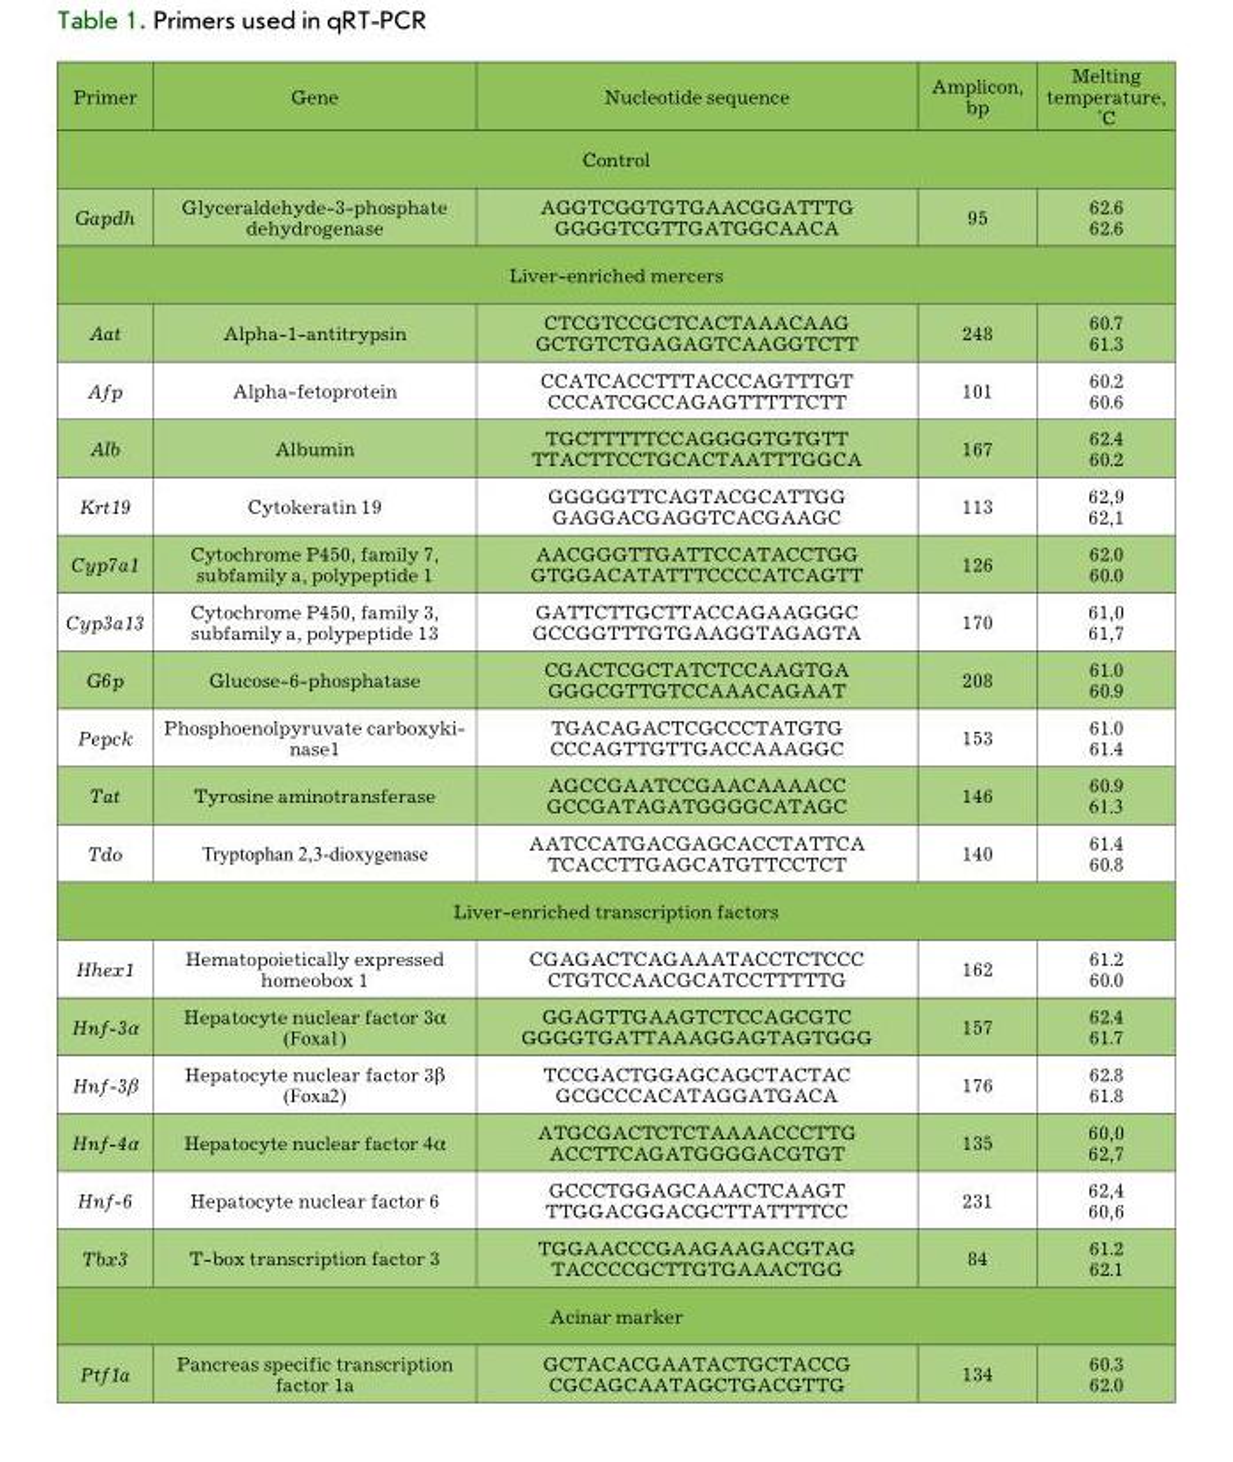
<table><thead><tr><td>Primer</td><td>Gene</td><td>Nucleotide sequence</td><td>Amplicon, bp</td><td>Melting temperature, °C</td></tr></thead><tbody><tr><td colspan="5">Control</td></tr><tr><td>Gapdh</td><td>Glyceraldehyde-3-phosphate dehydrogenase</td><td>AGGTCGGTGTGAACGGATTTG GGGGTCGTTGATGGCAACA</td><td>95</td><td>62.6 62.6</td></tr><tr><td colspan="5">Liver-enriched mercers</td></tr><tr><td>Aat</td><td>Alpha-1-antitrypsin</td><td>CTCGTCCGCTCACTAAACAAG GCTGTCTGAGAGTCAAGGTCTT</td><td>248</td><td>60.7 61.3</td></tr><tr><td>Afp</td><td>Alpha-fetoprotein</td><td>CCATCACCTTTACCCAGTTTGT CCCATCGCCAGAGTTTTTCTT</td><td>101</td><td>60.2 60.6</td></tr><tr><td>Alb</td><td>Albumin</td><td>TGCTTTTTCCAGGGGTGTGTT TTACTTCCTGCACTAATTTGGCA</td><td>167</td><td>62.4 60.2</td></tr><tr><td>Krt19</td><td>Cytokeratin 19</td><td>GGGGGTTCAGTACGCATTGG GAGGACGAGGTCACGAAGC</td><td>113</td><td>62,9 62,1</td></tr><tr><td>Cyp7a1</td><td>Cytochrome P450, family 7, subfamily a, polypeptide 1</td><td>AACGGGTTGATTCCATACCTGG GTGGACATATTTCCCCATCAGTT</td><td>126</td><td>62.0 60.0</td></tr><tr><td>Cyp3a13</td><td>Cytochrome P450, family 3, subfamily a, polypeptide 13</td><td>GATTCTTGCTTACCAGAAGGGC GCCGGTTTGTGAAGGTAGAGTA</td><td>170</td><td>61,0 61,7</td></tr><tr><td>G6p</td><td>Glucose-6-phosphatase</td><td>CGACTCGCTATCTCCAAGTGA GGGCGTTGTCCAAACAGAAT</td><td>208</td><td>61.0 60.9</td></tr><tr><td>Pepck</td><td>Phosphoenolpyruvate carboxyki- nase1</td><td>TGACAGACTCGCCCTATGTG CCCAGTTGTTGACCAAAGGC</td><td>153</td><td>61.0 61.4</td></tr><tr><td>Tat</td><td>Tyrosine aminotransferase</td><td>AGCCGAATCCGAACAAAACC GCCGATAGATGGGGCATAGC</td><td>146</td><td>60.9 61.3</td></tr><tr><td>Tdo</td><td>Tryptophan 2,3-dioxygenase</td><td>AATCCATGACGAGCACCTATTCA TCACCTTGAGCATGTTCCTCT</td><td>140</td><td>61.4 60.8</td></tr><tr><td colspan="5">Liver-enriched transcription factors</td></tr><tr><td>Hhex1</td><td>Hematopoietically expressed homeobox 1</td><td>CGAGACTCAGAAATACCTCTCCC CTGTCCAACGCATCCTTTTTG</td><td>162</td><td>61.2 60.0</td></tr><tr><td>Hnf-3α</td><td>Hepatocyte nuclear factor 3α (Foxa1)</td><td>GGAGTTGAAGTCTCCAGCGTC GGGGTGATTAAAGGAGTAGTGGG</td><td>157</td><td>62.4 61.7</td></tr><tr><td>Hnf-3β</td><td>Hepatocyte nuclear factor 3β (Foxa2)</td><td>TCCGACTGGAGCAGCTACTAC GCGCCCACATAGGATGACA</td><td>176</td><td>62.8 61.8</td></tr><tr><td>Hnf-4α</td><td>Hepatocyte nuclear factor 4α</td><td>ATGCGACTCTCTAAAACCCTTG ACCTTCAGATGGGGACGTGT</td><td>135</td><td>60,0 62,7</td></tr><tr><td>Hnf-6</td><td>Hepatocyte nuclear factor 6</td><td>GCCCTGGAGCAAACTCAAGT TTGGACGGACGCTTATTTTCC</td><td>231</td><td>62,4 60,6</td></tr><tr><td>Tbx3</td><td>T-box transcription factor 3</td><td>TGGAACCCGAAGAAGACGTAG TACCCCGCTTGTGAAACTGG</td><td>84</td><td>61.2 62.1</td></tr><tr><td colspan="5">Acinar marker</td></tr><tr><td>Ptf1a</td><td>Pancreas specific transcription factor 1a</td><td>GCTACACGAATACTGCTACCG CGCAGCAATAGCTGACGTTG</td><td>134</td><td>60.3 62.0</td></tr></tbody></table>